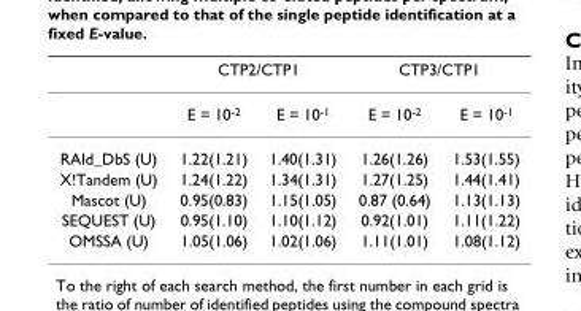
<table><thead><tr><td rowspan="2"></td><td colspan="2">CTP2/CTP1</td><td colspan="2">CTP3/CTP1</td></tr><tr><td>E = 10<sup>-2</sup></td><td>E = 10<sup>-1</sup></td><td>E = 10<sup>-2</sup></td><td>E = 10<sup>-1</sup></td></tr></thead><tbody><tr><td>RAId_DbS (U)</td><td>1.22(1.21)</td><td>1.40(1.31)</td><td>1.26(1.26)</td><td>1.53(1.55)</td></tr><tr><td>X!Tandem (U)</td><td>1.24(1.22)</td><td>1.34(1.31)</td><td>1.27(1.25)</td><td>1.44(1.41)</td></tr><tr><td>Mascot (U)</td><td>0.95(0.83)</td><td>1.15(1.05)</td><td>0.87 (0.64)</td><td>1.13(1.13)</td></tr><tr><td>SEQUEST (U)</td><td>0.95(1.10)</td><td>1.10(1.12)</td><td>0.92(1.01)</td><td>1.11(1.22)</td></tr><tr><td>OMSSA (U)</td><td>1.05(1.06)</td><td>1.02(1.06)</td><td>1.11(1.01)</td><td>1.08(1.12)</td></tr></tbody></table>